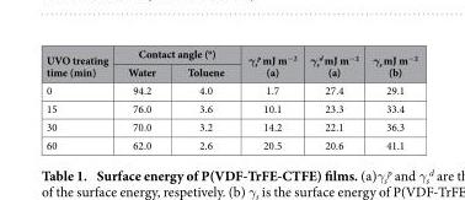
<table><thead><tr><td rowspan="2">UVO treating time (min)</td><td colspan="2">Contact angle (<sup>o</sup>)</td><td rowspan="2">γ<sub>s</sub> <sup>p</sup> mJ m<sup>−2</sup> (a)</td><td rowspan="2">γ<sub>s</sub> <sup>d</sup> mJ m<sup>−2</sup> (a)</td><td rowspan="2">γ<sub>s</sub> mJ m<sup>−2</sup> (b)</td></tr><tr><td>Water</td><td>Toluene</td></tr></thead><tbody><tr><td>0</td><td>94.2</td><td>4.0</td><td>1.7</td><td>27.4</td><td>29.1</td></tr><tr><td>15</td><td>76.0</td><td>3.6</td><td>10.1</td><td>23.3</td><td>33.4</td></tr><tr><td>30</td><td>70.0</td><td>3.2</td><td>14.2</td><td>22.1</td><td>36.3</td></tr><tr><td>60</td><td>62.0</td><td>2.6</td><td>20.5</td><td>20.6</td><td>41.1</td></tr></tbody></table>